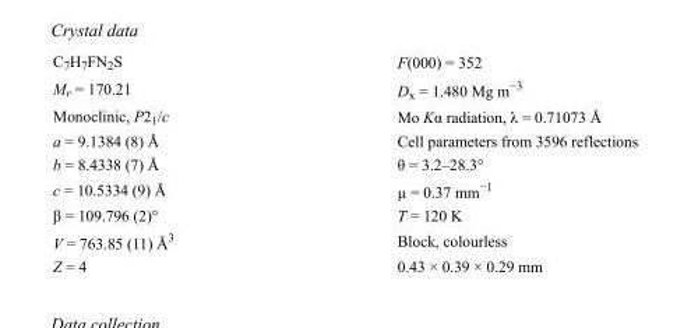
<table><tbody><tr><td>C<sub>7</sub>H<sub>7</sub>FN<sub>2</sub>S</td><td>F(000) = 352</td></tr><tr><td>M<sub>r</sub> = 170.21</td><td>D<sub>x</sub> = 1.480 Mg m<sup>−3</sup></td></tr><tr><td>Monoclinic, P2<sub>1</sub>/c</td><td>Mo Kα radiation, λ = 0.71073 Å</td></tr><tr><td>a = 9.1384 (8) Å</td><td>Cell parameters from 3596 reflections</td></tr><tr><td>b = 8.4338 (7) Å</td><td>θ = 3.2–28.3°</td></tr><tr><td>c = 10.5334 (9) Å</td><td>µ = 0.37 mm<sup>−1</sup></td></tr><tr><td>β = 109.796 (2)°</td><td>T = 120 K</td></tr><tr><td>V = 763.85 (11) Å<sup>3</sup></td><td>Block, colourless</td></tr><tr><td>Z = 4</td><td>0.43 × 0.39 × 0.29 mm</td></tr></tbody></table>